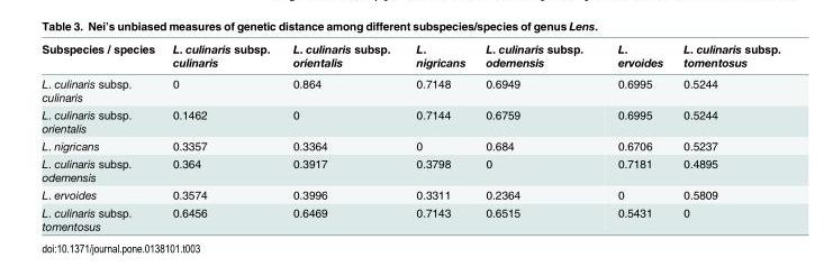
<table><thead><tr><td>Subspecies / species</td><td>L. culinaris subsp. culinaris</td><td>L. culinaris subsp. orientalis</td><td>L. nigricans</td><td>L. culinaris subsp. odemensis</td><td>L. ervoides</td><td>L. culinaris subsp. tomentosus</td></tr></thead><tbody><tr><td>L. culinaris subsp. culinaris</td><td>0</td><td>0.864</td><td>0.7148</td><td>0.6949</td><td>0.6995</td><td>0.5244</td></tr><tr><td>L. culinaris subsp. orientalis</td><td>0.1462</td><td>0</td><td>0.7144</td><td>0.6759</td><td>0.6995</td><td>0.5244</td></tr><tr><td>L. nigricans</td><td>0.3357</td><td>0.3364</td><td>0</td><td>0.684</td><td>0.6706</td><td>0.5237</td></tr><tr><td>L. culinaris subsp. odemensis</td><td>0.364</td><td>0.3917</td><td>0.3798</td><td>0</td><td>0.7181</td><td>0.4895</td></tr><tr><td>L. ervoides</td><td>0.3574</td><td>0.3996</td><td>0.3311</td><td>0.2364</td><td>0</td><td>0.5809</td></tr><tr><td>L. culinaris subsp. tomentosus</td><td>0.6456</td><td>0.6469</td><td>0.7143</td><td>0.6515</td><td>0.5431</td><td>0</td></tr></tbody></table>